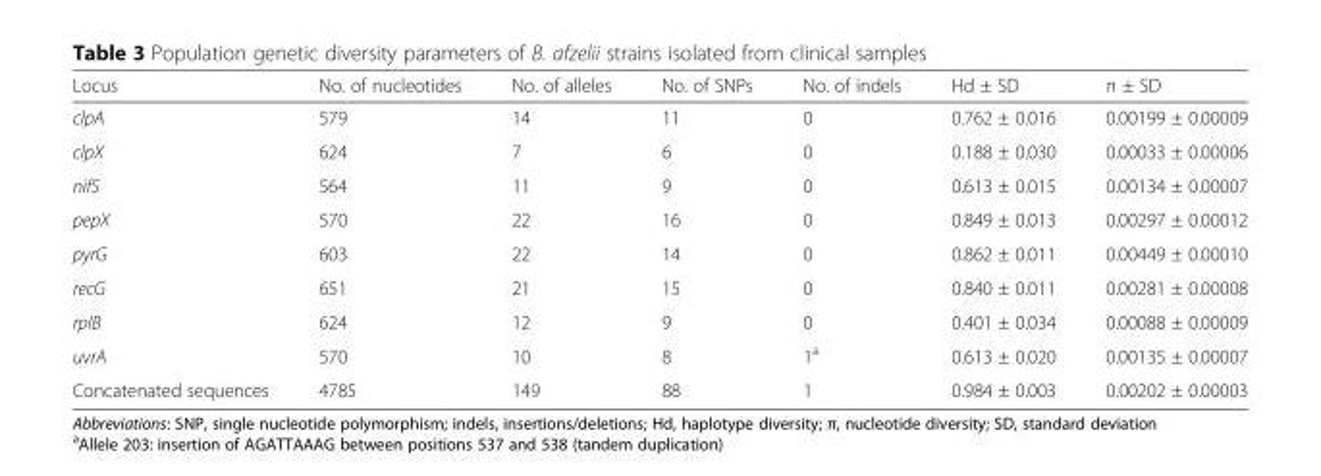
<table><thead><tr><td>Locus</td><td>No. of nucleotides</td><td>No. of alleles</td><td>No. of SNPs</td><td>No. of indels</td><td>Hd ± SD</td><td>π ± SD</td></tr></thead><tbody><tr><td>clpA</td><td>579</td><td>14</td><td>11</td><td>0</td><td>0.762 ± 0.016</td><td>0.00199 ± 0.00009</td></tr><tr><td>clpX</td><td>624</td><td>7</td><td>6</td><td>0</td><td>0.188 ± 0.030</td><td>0.00033 ± 0.00006</td></tr><tr><td>nifS</td><td>564</td><td>11</td><td>9</td><td>0</td><td>0.613 ± 0.015</td><td>0.00134 ± 0.00007</td></tr><tr><td>pepX</td><td>570</td><td>22</td><td>16</td><td>0</td><td>0.849 ± 0.013</td><td>0.00297 ± 0.00012</td></tr><tr><td>pyrG</td><td>603</td><td>22</td><td>14</td><td>0</td><td>0.862 ± 0.011</td><td>0.00449 ± 0.00010</td></tr><tr><td>recG</td><td>651</td><td>21</td><td>15</td><td>0</td><td>0.840 ± 0.011</td><td>0.00281 ± 0.00008</td></tr><tr><td>rplB</td><td>624</td><td>12</td><td>9</td><td>0</td><td>0.401 ± 0.034</td><td>0.00088 ± 0.00009</td></tr><tr><td>uvrA</td><td>570</td><td>10</td><td>8</td><td>1<sup>a</sup></td><td>0.613 ± 0.020</td><td>0.00135 ± 0.00007</td></tr><tr><td>Concatenated sequences</td><td>4785</td><td>149</td><td>88</td><td>1</td><td>0.984 ± 0.003</td><td>0.00202 ± 0.00003</td></tr></tbody></table>